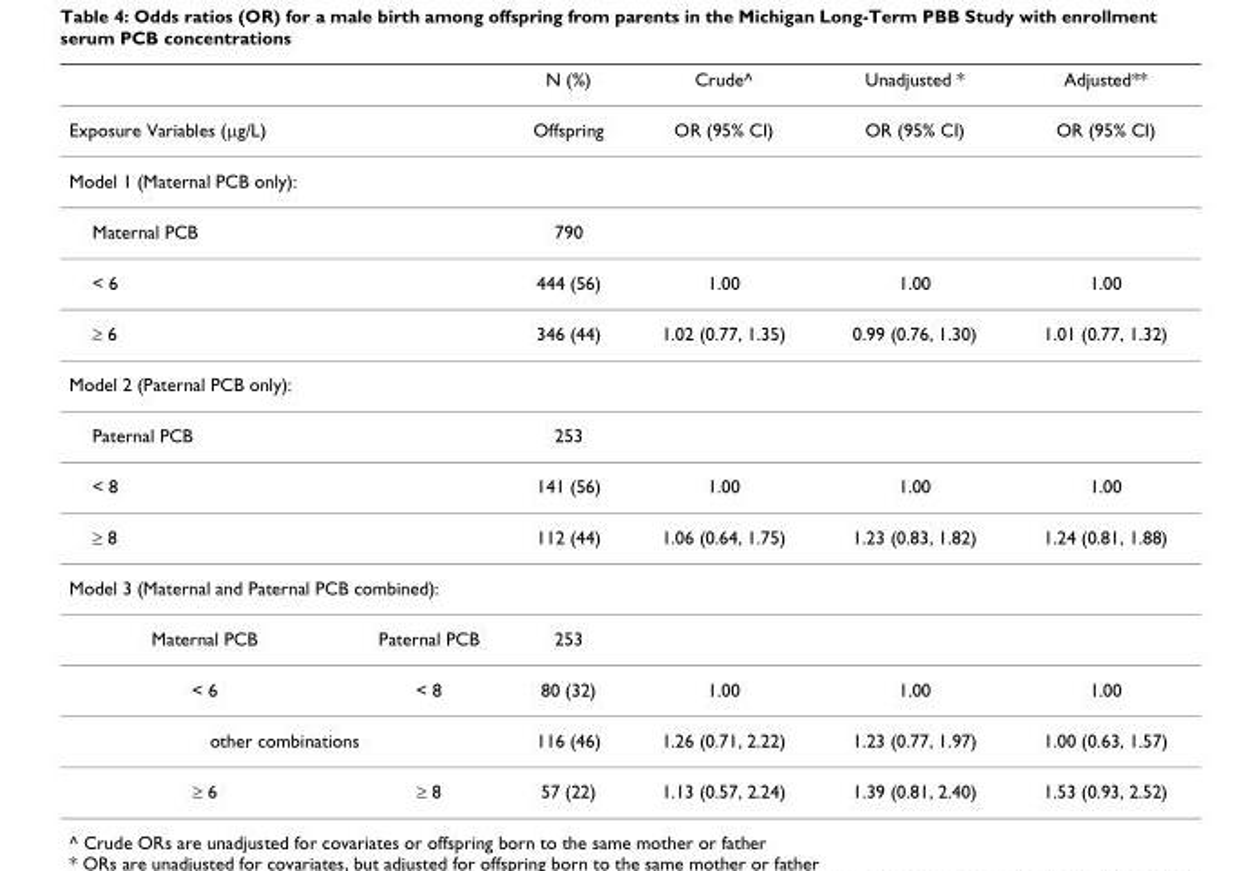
<table><thead><tr><td></td><td></td><td>N (%)</td><td>Crude^</td><td>Unadjusted *</td><td>Adjusted**</td></tr></thead><tbody><tr><td>Exposure Variables (μg/L)</td><td></td><td>Offspring</td><td>OR (95% CI)</td><td>OR (95% CI)</td><td>OR (95% CI)</td></tr><tr><td colspan="6">Model 1 (Maternal PCB only):</td></tr><tr><td>Maternal PCB</td><td></td><td>790</td><td></td><td></td><td></td></tr><tr><td>&lt; 6</td><td></td><td>444 (56)</td><td>1.00</td><td>1.00</td><td>1.00</td></tr><tr><td>≥ 6</td><td></td><td>346 (44)</td><td>1.02 (0.77, 1.35)</td><td>0.99 (0.76, 1.30)</td><td>1.01 (0.77, 1.32)</td></tr><tr><td colspan="6">Model 2 (Paternal PCB only):</td></tr><tr><td>Paternal PCB</td><td></td><td>253</td><td></td><td></td><td></td></tr><tr><td>&lt; 8</td><td></td><td>141 (56)</td><td>1.00</td><td>1.00</td><td>1.00</td></tr><tr><td>≥ 8</td><td></td><td>112 (44)</td><td>1.06 (0.64, 1.75)</td><td>1.23 (0.83, 1.82)</td><td>1.24 (0.81, 1.88)</td></tr><tr><td colspan="6">Model 3 (Maternal and Paternal PCB combined):</td></tr><tr><td>Maternal PCB</td><td>Paternal PCB</td><td>253</td><td></td><td></td><td></td></tr><tr><td>&lt; 6</td><td>&lt; 8</td><td>80 (32)</td><td>1.00</td><td>1.00</td><td>1.00</td></tr><tr><td colspan="2">other combinations</td><td>116 (46)</td><td>1.26 (0.71, 2.22)</td><td>1.23 (0.77, 1.97)</td><td>1.00 (0.63, 1.57)</td></tr><tr><td>≥ 6</td><td>≥ 8</td><td>57 (22)</td><td>1.13 (0.57, 2.24)</td><td>1.39 (0.81, 2.40)</td><td>1.53 (0.93, 2.52)</td></tr></tbody></table>